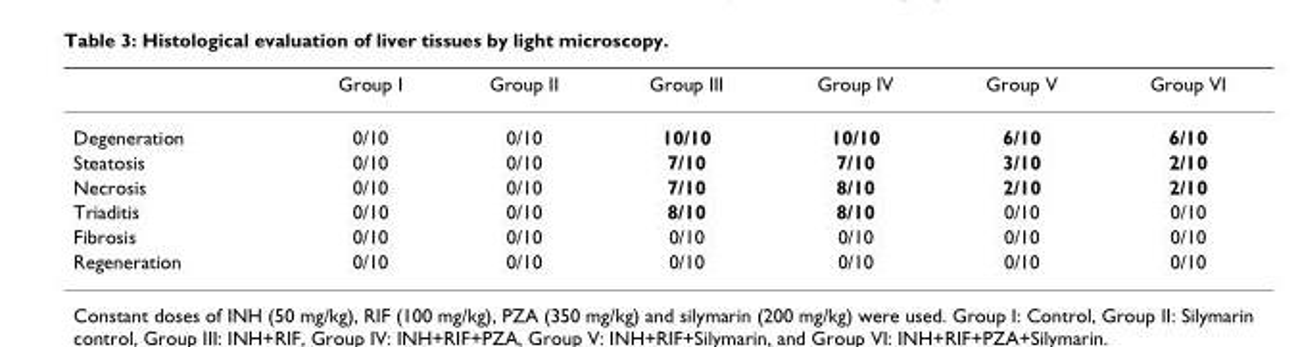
<table><thead><tr><td></td><td>Group I</td><td>Group II</td><td>Group III</td><td>Group IV</td><td>Group V</td><td>Group VI</td></tr></thead><tbody><tr><td>Degeneration</td><td>0/10</td><td>0/10</td><td>10/10</td><td>10/10</td><td>6/10</td><td>6/10</td></tr><tr><td>Steatosis</td><td>0/10</td><td>0/10</td><td>7/10</td><td>7/10</td><td>3/10</td><td>2/10</td></tr><tr><td>Necrosis</td><td>0/10</td><td>0/10</td><td>7/10</td><td>8/10</td><td>2/10</td><td>2/10</td></tr><tr><td>Triaditis</td><td>0/10</td><td>0/10</td><td>8/10</td><td>8/10</td><td>0/10</td><td>0/10</td></tr><tr><td>Fibrosis</td><td>0/10</td><td>0/10</td><td>0/10</td><td>0/10</td><td>0/10</td><td>0/10</td></tr><tr><td>Regeneration</td><td>0/10</td><td>0/10</td><td>0/10</td><td>0/10</td><td>0/10</td><td>0/10</td></tr></tbody></table>